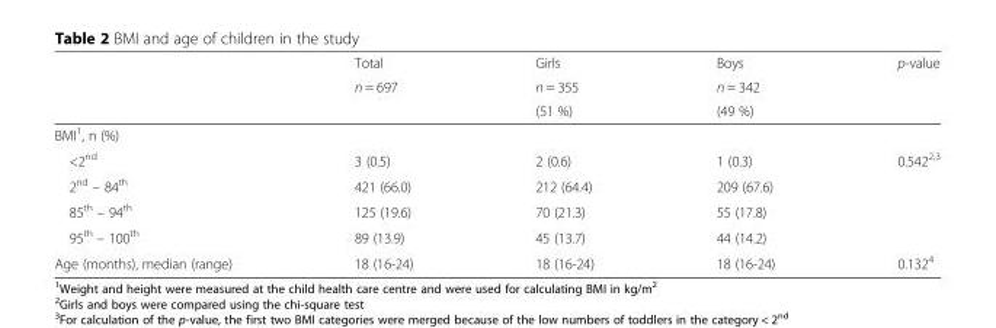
<table><thead><tr><td rowspan="3"></td><td rowspan="3">Total n = 697</td><td rowspan="3">Girls n = 355 (51 %)</td><td rowspan="3">Boys n = 342 (49 %)</td><td rowspan="3">p-value</td></tr><tr></tr><tr></tr></thead><tbody><tr><td colspan="5">BMI<sup>1</sup>, n (%)</td></tr><tr><td>&lt;2<sup>nd</sup></td><td>3 (0.5)</td><td>2 (0.6)</td><td>1 (0.3)</td><td>0.542<sup>2,3</sup></td></tr><tr><td>2<sup>nd</sup> – 84<sup>th</sup></td><td>421 (66.0)</td><td>212 (64.4)</td><td>209 (67.6)</td><td></td></tr><tr><td>85<sup>th</sup> – 94<sup>th</sup></td><td>125 (19.6)</td><td>70 (21.3)</td><td>55 (17.8)</td><td></td></tr><tr><td>95<sup>th</sup> – 100<sup>th</sup></td><td>89 (13.9)</td><td>45 (13.7)</td><td>44 (14.2)</td><td></td></tr><tr><td>Age (months), median (range)</td><td>18 (16-24)</td><td>18 (16-24)</td><td>18 (16-24)</td><td>0.132<sup>4</sup></td></tr></tbody></table>